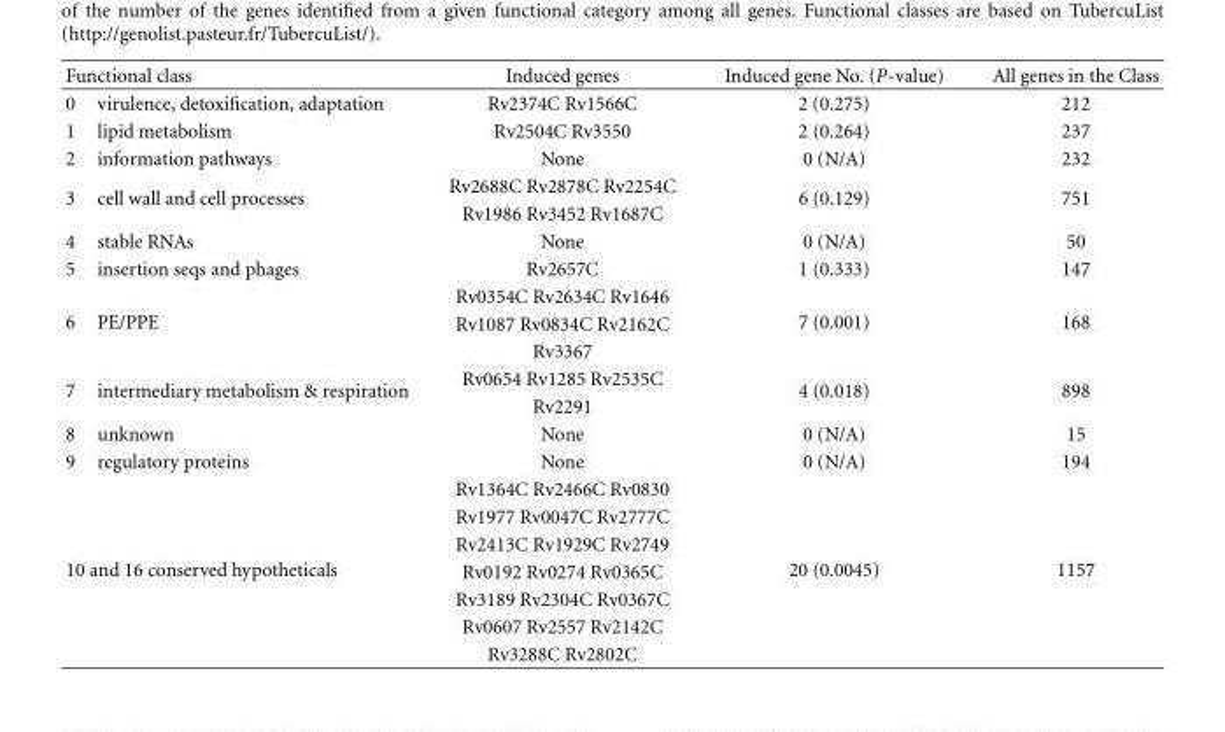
<table><thead><tr><td>Functional class</td><td>Induced genes</td><td>Induced gene No. (P-value)</td><td>All genes in the Class</td></tr></thead><tbody><tr><td>0 virulence, detoxification, adaptation</td><td>Rv2374C Rv1566C</td><td>2 (0.275)</td><td>212</td></tr><tr><td>1 lipid metabolism</td><td>Rv2504C Rv3550</td><td>2 (0.264)</td><td>237</td></tr><tr><td>2 information pathways</td><td>None</td><td>0 (N/A)</td><td>232</td></tr><tr><td rowspan="2">3 cell wall and cell processes</td><td>Rv2688C Rv2878C Rv2254C</td><td rowspan="2">6 (0.129)</td><td rowspan="2">751</td></tr><tr><td>Rv1986 Rv3452 Rv1687C</td></tr><tr><td>4 stable RNAs</td><td>None</td><td>0 (N/A)</td><td>50</td></tr><tr><td>5 insertion seqs and phages</td><td>Rv2657C</td><td>1 (0.333)</td><td>147</td></tr><tr><td rowspan="3">6 PE/PPE</td><td>Rv0354C Rv2634C Rv1646</td><td rowspan="3">7 (0.001)</td><td rowspan="3">168</td></tr><tr><td>Rv1087 Rv0834C Rv2162C</td></tr><tr><td>Rv3367</td></tr><tr><td rowspan="2">7 intermediary metabolism &amp; respiration</td><td>Rv0654 Rv1285 Rv2535C</td><td rowspan="2">4 (0.018)</td><td rowspan="2">898</td></tr><tr><td>Rv2291</td></tr><tr><td>8 unknown</td><td>None</td><td>0 (N/A)</td><td>15</td></tr><tr><td>9 regulatory proteins</td><td>None</td><td>0 (N/A)</td><td>194</td></tr><tr><td rowspan="7">10 and 16 conserved hypotheticals</td><td>Rv1364C Rv2466C Rv0830</td><td rowspan="7">20 (0.0045)</td><td rowspan="7">1157</td></tr><tr><td>Rv1977 Rv0047C Rv2777C</td></tr><tr><td>Rv2413C Rv1929C Rv2749</td></tr><tr><td>Rv0192 Rv0274 Rv0365C</td></tr><tr><td>Rv3189 Rv2304C Rv0367C</td></tr><tr><td>Rv0607 Rv2557 Rv2142C</td></tr><tr><td>Rv3288C Rv2802C</td></tr></tbody></table>